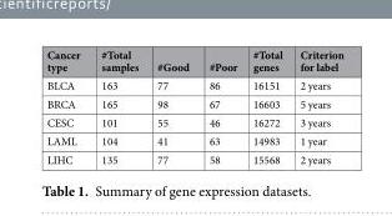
<table><thead><tr><td>Cancer type</td><td>#Total samples</td><td>#Good</td><td>#Poor</td><td>#Total genes</td><td>Criterion for label</td></tr></thead><tbody><tr><td>BLCA</td><td>163</td><td>77</td><td>86</td><td>16151</td><td>2 years</td></tr><tr><td>BRCA</td><td>165</td><td>98</td><td>67</td><td>16603</td><td>5 years</td></tr><tr><td>CESC</td><td>101</td><td>55</td><td>46</td><td>16272</td><td>3 years</td></tr><tr><td>LAML</td><td>104</td><td>41</td><td>63</td><td>14983</td><td>1 year</td></tr><tr><td>LIHC</td><td>135</td><td>77</td><td>58</td><td>15568</td><td>2 years</td></tr></tbody></table>